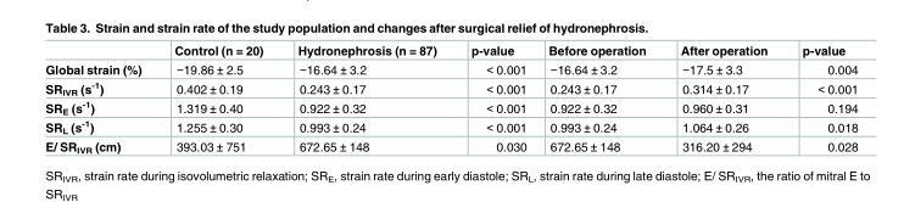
<table><thead><tr><td></td><td>Control (n = 20)</td><td>Hydronephrosis (n = 87)</td><td>p-value</td><td>Before operation</td><td>After operation</td><td>p-value</td></tr></thead><tbody><tr><td>Global strain (%)</td><td>−19.86 ± 2.5</td><td>−16.64 ± 3.2</td><td>&lt; 0.001</td><td>−16.64 ± 3.2</td><td>−17.5 ± 3.3</td><td>0.004</td></tr><tr><td>SR<sub>IVR</sub> (s<sup>-1</sup>)</td><td>0.402 ± 0.19</td><td>0.243 ± 0.17</td><td>&lt; 0.001</td><td>0.243 ± 0.17</td><td>0.314 ± 0.17</td><td>&lt; 0.001</td></tr><tr><td>SR<sub>E</sub> (s<sup>-1</sup>)</td><td>1.319 ± 0.40</td><td>0.922 ± 0.32</td><td>&lt; 0.001</td><td>0.922 ± 0.32</td><td>0.960 ± 0.31</td><td>0.194</td></tr><tr><td>SR<sub>L</sub> (s<sup>-1</sup>)</td><td>1.255 ± 0.30</td><td>0.993 ± 0.24</td><td>&lt; 0.001</td><td>0.993 ± 0.24</td><td>1.064 ± 0.26</td><td>0.018</td></tr><tr><td>E/ SR<sub>IVR</sub> (cm)</td><td>393.03 ± 751</td><td>672.65 ± 148</td><td>0.030</td><td>672.65 ± 148</td><td>316.20 ± 294</td><td>0.028</td></tr></tbody></table>